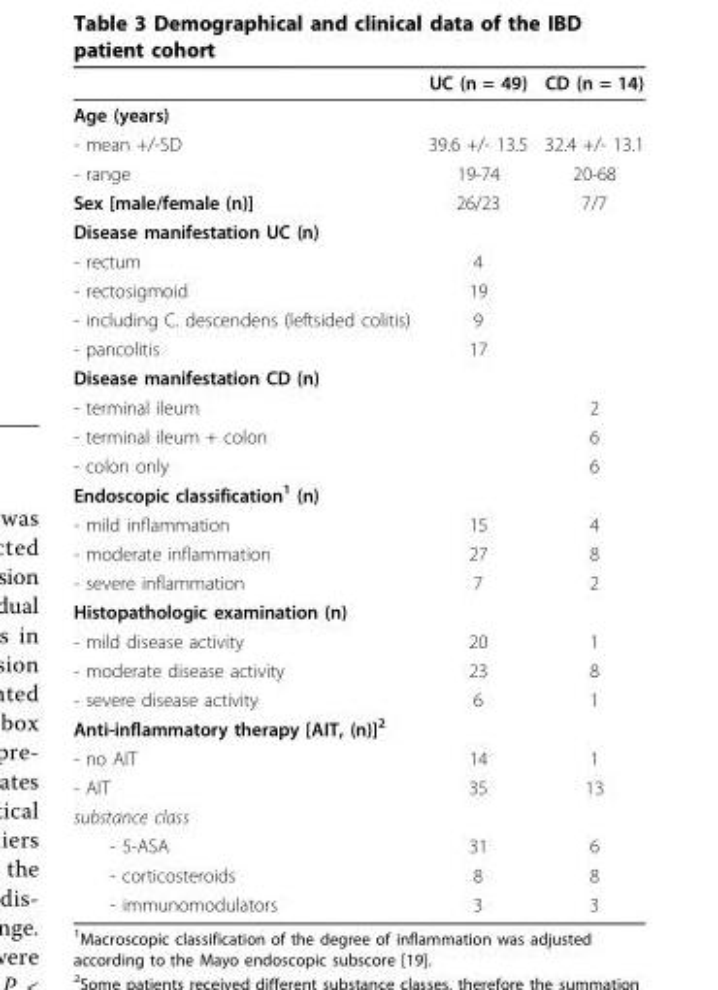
<table><thead><tr><td></td><td>UC (n = 49)</td><td>CD (n = 14)</td></tr></thead><tbody><tr><td colspan="3">Age (years)</td></tr><tr><td>- mean +/-SD</td><td>39.6 +/- 13.5</td><td>32.4 +/- 13.1</td></tr><tr><td>- range</td><td>19-74</td><td>20-68</td></tr><tr><td>Sex [male/female (n)]</td><td>26/23</td><td>7/7</td></tr><tr><td colspan="3">Disease manifestation UC (n)</td></tr><tr><td>- rectum</td><td>4</td><td></td></tr><tr><td>- rectosigmoid</td><td>19</td><td></td></tr><tr><td>- including C. descendens (leftsided colitis)</td><td>9</td><td></td></tr><tr><td>- pancolitis</td><td>17</td><td></td></tr><tr><td colspan="3">Disease manifestation CD (n)</td></tr><tr><td>- terminal ileum</td><td></td><td>2</td></tr><tr><td>- terminal ileum + colon</td><td></td><td>6</td></tr><tr><td>- colon only</td><td></td><td>6</td></tr><tr><td colspan="3">Endoscopic classification<sup>1</sup> (n)</td></tr><tr><td>- mild inflammation</td><td>15</td><td>4</td></tr><tr><td>- moderate inflammation</td><td>27</td><td>8</td></tr><tr><td>- severe inflammation</td><td>7</td><td>2</td></tr><tr><td colspan="3">Histopathologic examination (n)</td></tr><tr><td>- mild disease activity</td><td>20</td><td>1</td></tr><tr><td>- moderate disease activity</td><td>23</td><td>8</td></tr><tr><td>- severe disease activity</td><td>6</td><td>1</td></tr><tr><td colspan="3">Anti-inflammatory therapy [AIT, (n)]<sup>2</sup></td></tr><tr><td>- no AIT</td><td>14</td><td>1</td></tr><tr><td>- AIT</td><td>35</td><td>13</td></tr><tr><td colspan="3">substance class</td></tr><tr><td>- 5-ASA</td><td>31</td><td>6</td></tr><tr><td>- corticosteroids</td><td>8</td><td>8</td></tr><tr><td>- immunomodulators</td><td>3</td><td>3</td></tr></tbody></table>